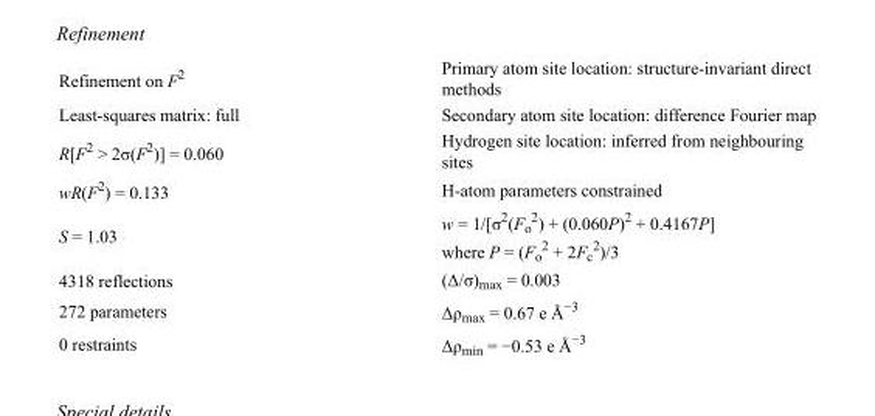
<table><tbody><tr><td>Refinement on F<sup>2</sup></td><td>Primary atom site location: structure-invariant direct methods</td></tr><tr><td>Least-squares matrix: full</td><td>Secondary atom site location: difference Fourier map</td></tr><tr><td>R[F<sup>2</sup> &gt; 2σ(F<sup>2</sup>)] = 0.060</td><td>Hydrogen site location: inferred from neighbouring sites</td></tr><tr><td>wR(F<sup>2</sup>) = 0.133</td><td>H-atom parameters constrained</td></tr><tr><td>S = 1.03</td><td>w = 1/[σ<sup>2</sup>(F<sub>o</sub> <sup>2</sup>) + (0.060P)<sup>2</sup> + 0.4167P] where P = (F<sub>o</sub> <sup>2</sup> + 2F<sub>c</sub> <sup>2</sup>)/3</td></tr><tr><td>4318 reflections</td><td>(Δ/σ)<sub>max</sub> = 0.003</td></tr><tr><td>272 parameters</td><td>Δρ<sub>max</sub> = 0.67 e Å<sup>−3</sup></td></tr><tr><td>0 restraints</td><td>Δρ<sub>min</sub> = −0.53 e Å<sup>−3</sup></td></tr></tbody></table>